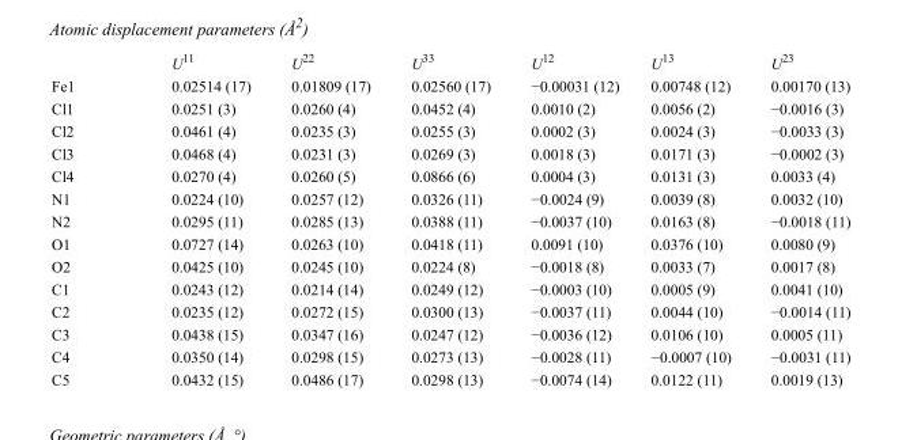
<table><thead><tr><td></td><td>U<sup>11</sup></td><td>U<sup>22</sup></td><td>U<sup>33</sup></td><td>U<sup>12</sup></td><td>U<sup>13</sup></td><td>U<sup>23</sup></td></tr></thead><tbody><tr><td>Fe1</td><td>0.02514 (17)</td><td>0.01809 (17)</td><td>0.02560 (17)</td><td>−0.00031 (12)</td><td>0.00748 (12)</td><td>0.00170 (13)</td></tr><tr><td>Cl1</td><td>0.0251 (3)</td><td>0.0260 (4)</td><td>0.0452 (4)</td><td>0.0010 (2)</td><td>0.0056 (2)</td><td>−0.0016 (3)</td></tr><tr><td>Cl2</td><td>0.0461 (4)</td><td>0.0235 (3)</td><td>0.0255 (3)</td><td>0.0002 (3)</td><td>0.0024 (3)</td><td>−0.0033 (3)</td></tr><tr><td>Cl3</td><td>0.0468 (4)</td><td>0.0231 (3)</td><td>0.0269 (3)</td><td>0.0018 (3)</td><td>0.0171 (3)</td><td>−0.0002 (3)</td></tr><tr><td>Cl4</td><td>0.0270 (4)</td><td>0.0260 (5)</td><td>0.0866 (6)</td><td>0.0004 (3)</td><td>0.0131 (3)</td><td>0.0033 (4)</td></tr><tr><td>N1</td><td>0.0224 (10)</td><td>0.0257 (12)</td><td>0.0326 (11)</td><td>−0.0024 (9)</td><td>0.0039 (8)</td><td>0.0032 (10)</td></tr><tr><td>N2</td><td>0.0295 (11)</td><td>0.0285 (13)</td><td>0.0388 (11)</td><td>−0.0037 (10)</td><td>0.0163 (8)</td><td>−0.0018 (11)</td></tr><tr><td>O1</td><td>0.0727 (14)</td><td>0.0263 (10)</td><td>0.0418 (11)</td><td>0.0091 (10)</td><td>0.0376 (10)</td><td>0.0080 (9)</td></tr><tr><td>O2</td><td>0.0425 (10)</td><td>0.0245 (10)</td><td>0.0224 (8)</td><td>−0.0018 (8)</td><td>0.0033 (7)</td><td>0.0017 (8)</td></tr><tr><td>C1</td><td>0.0243 (12)</td><td>0.0214 (14)</td><td>0.0249 (12)</td><td>−0.0003 (10)</td><td>0.0005 (9)</td><td>0.0041 (10)</td></tr><tr><td>C2</td><td>0.0235 (12)</td><td>0.0272 (15)</td><td>0.0300 (13)</td><td>−0.0037 (11)</td><td>0.0044 (10)</td><td>−0.0014 (11)</td></tr><tr><td>C3</td><td>0.0438 (15)</td><td>0.0347 (16)</td><td>0.0247 (12)</td><td>−0.0036 (12)</td><td>0.0106 (10)</td><td>0.0005 (11)</td></tr><tr><td>C4</td><td>0.0350 (14)</td><td>0.0298 (15)</td><td>0.0273 (13)</td><td>−0.0028 (11)</td><td>−0.0007 (10)</td><td>−0.0031 (11)</td></tr><tr><td>C5</td><td>0.0432 (15)</td><td>0.0486 (17)</td><td>0.0298 (13)</td><td>−0.0074 (14)</td><td>0.0122 (11)</td><td>0.0019 (13)</td></tr></tbody></table>